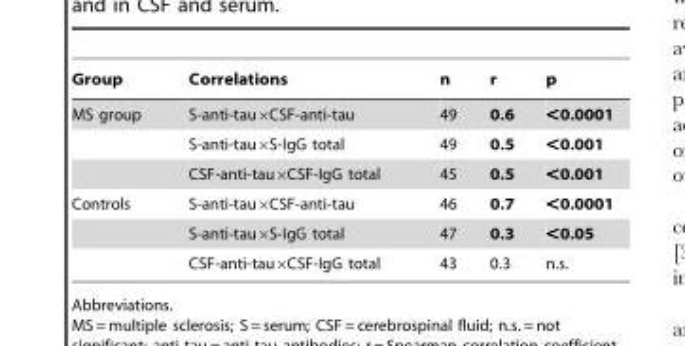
<table><thead><tr><td>Group</td><td>Correlations</td><td>n</td><td>r</td><td>p</td></tr></thead><tbody><tr><td rowspan="3">MS group</td><td>S-anti-tau×CSF-anti-tau</td><td>49</td><td>0.6</td><td>&lt;0.0001</td></tr><tr><td>S-anti-tau×S-IgG total</td><td>49</td><td>0.5</td><td>&lt;0.001</td></tr><tr><td>CSF-anti-tau×CSF-IgG total</td><td>45</td><td>0.5</td><td>&lt;0.001</td></tr><tr><td rowspan="3">Controls</td><td>S-anti-tau×CSF-anti-tau</td><td>46</td><td>0.7</td><td>&lt;0.0001</td></tr><tr><td>S-anti-tau×S-IgG total</td><td>47</td><td>0.3</td><td>&lt;0.05</td></tr><tr><td>CSF-anti-tau×CSF-IgG total</td><td>43</td><td>0.3</td><td>n.s.</td></tr></tbody></table>